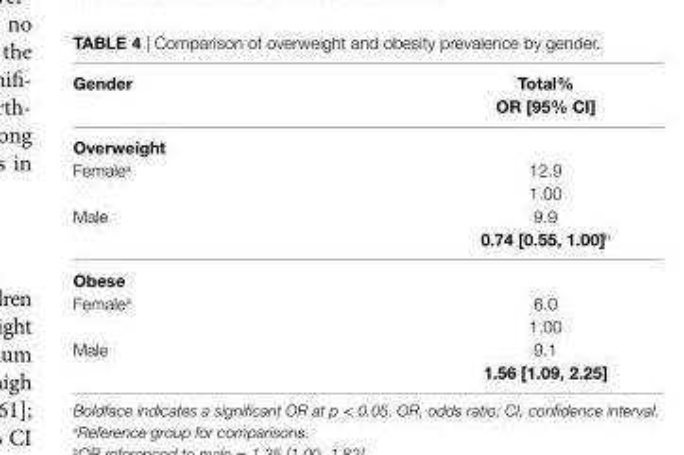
<table><thead><tr><td>gender</td><td>Total% Or [95% ci]</td></tr></thead><tbody><tr><td colspan="2">Overweight</td></tr><tr><td>Female<sup>a</sup></td><td>12.9 1.00</td></tr><tr><td>Male</td><td>9.9 0.74 [0.55, 1.00]<sup>b</sup></td></tr><tr><td colspan="2">Obese</td></tr><tr><td>Female<sup>a</sup></td><td>6.0 1.00</td></tr><tr><td>Male</td><td>9.1 1.56 [1.09, 2.25]</td></tr></tbody></table>